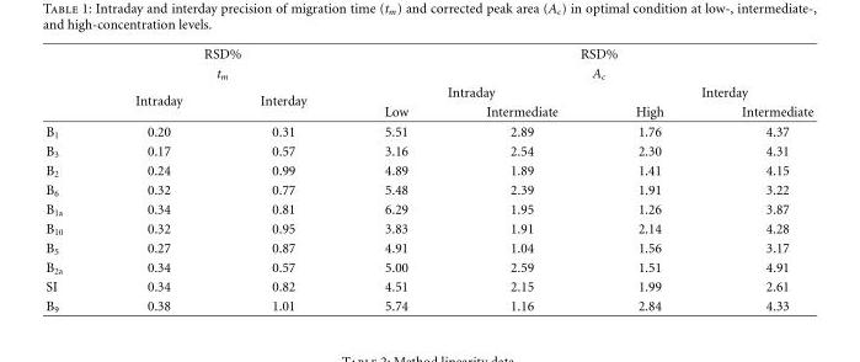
<table><thead><tr><td rowspan="4"></td><td rowspan="2" colspan="2">RSD% t<sub>m</sub></td><td rowspan="2" colspan="4">RSD% A<sub>c</sub></td></tr><tr></tr><tr><td rowspan="2">Intraday</td><td rowspan="2">Interday</td><td colspan="2">Intraday</td><td colspan="2">Interday</td></tr><tr><td>Low</td><td>Intermediate</td><td>High</td><td>Intermediate</td></tr></thead><tbody><tr><td>B<sub>1</sub></td><td>0.20</td><td>0.31</td><td>5.51</td><td>2.89</td><td>1.76</td><td>4.37</td></tr><tr><td>B<sub>3</sub></td><td>0.17</td><td>0.57</td><td>3.16</td><td>2.54</td><td>2.30</td><td>4.31</td></tr><tr><td>B<sub>2</sub></td><td>0.24</td><td>0.99</td><td>4.89</td><td>1.89</td><td>1.41</td><td>4.15</td></tr><tr><td>B<sub>6</sub></td><td>0.32</td><td>0.77</td><td>5.48</td><td>2.39</td><td>1.91</td><td>3.22</td></tr><tr><td>B<sub>1a</sub></td><td>0.34</td><td>0.81</td><td>6.29</td><td>1.95</td><td>1.26</td><td>3.87</td></tr><tr><td>B<sub>10</sub></td><td>0.32</td><td>0.95</td><td>3.83</td><td>1.91</td><td>2.14</td><td>4.28</td></tr><tr><td>B<sub>5</sub></td><td>0.27</td><td>0.87</td><td>4.91</td><td>1.04</td><td>1.56</td><td>3.17</td></tr><tr><td>B<sub>2a</sub></td><td>0.34</td><td>0.57</td><td>5.00</td><td>2.59</td><td>1.51</td><td>4.91</td></tr><tr><td>SI</td><td>0.34</td><td>0.82</td><td>4.51</td><td>2.15</td><td>1.99</td><td>2.61</td></tr><tr><td>B<sub>9</sub></td><td>0.38</td><td>1.01</td><td>5.74</td><td>1.16</td><td>2.84</td><td>4.33</td></tr></tbody></table>